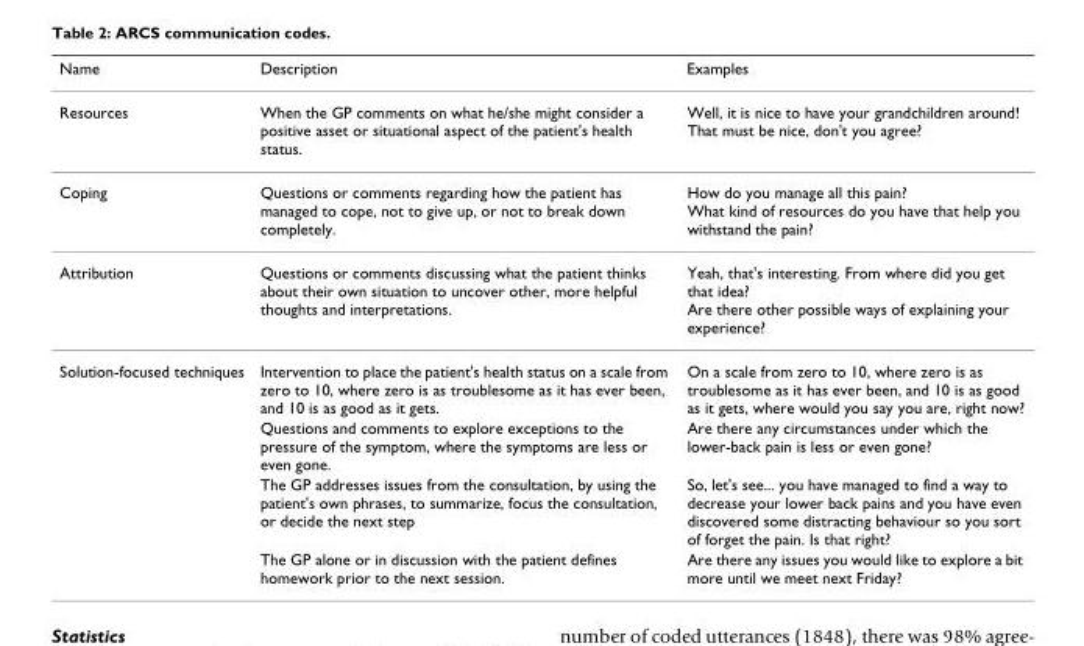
<table><thead><tr><td>Name</td><td>Description</td><td>Examples</td></tr></thead><tbody><tr><td>Resources</td><td>When the GP comments on what he/she might consider a positive asset or situational aspect of the patient&#x27;s health status.</td><td>Well, it is nice to have your grandchildren around! That must be nice, don&#x27;t you agree?</td></tr><tr><td>Coping</td><td>Questions or comments regarding how the patient has managed to cope, not to give up, or not to break down completely.</td><td>How do you manage all this pain? What kind of resources do you have that help you withstand the pain?</td></tr><tr><td>Attribution</td><td>Questions or comments discussing what the patient thinks about their own situation to uncover other, more helpful thoughts and interpretations.</td><td>Yeah, that&#x27;s interesting. From where did you get that idea? Are there other possible ways of explaining your experience?</td></tr><tr><td rowspan="4">Solution-focused techniques</td><td>Intervention to place the patient&#x27;s health status on a scale from zero to 10, where zero is as troublesome as it has ever been, and 10 is as good as it gets.</td><td>On a scale from zero to 10, where zero is as troublesome as it has ever been, and 10 is as good as it gets, where would you say you are, right now?</td></tr><tr><td>Questions and comments to explore exceptions to the pressure of the symptom, where the symptoms are less or even gone.</td><td>Are there any circumstances under which the lower-back pain is less or even gone?</td></tr><tr><td>The GP addresses issues from the consultation, by using the patient&#x27;s own phrases, to summarize, focus the consultation, or decide the next step</td><td>So, let&#x27;s see... you have managed to find a way to decrease your lower back pains and you have even discovered some distracting behaviour so you sort of forget the pain. Is that right?</td></tr><tr><td>The GP alone or in discussion with the patient defines homework prior to the next session.</td><td>Are there any issues you would like to explore a bit more until we meet next Friday?</td></tr></tbody></table>